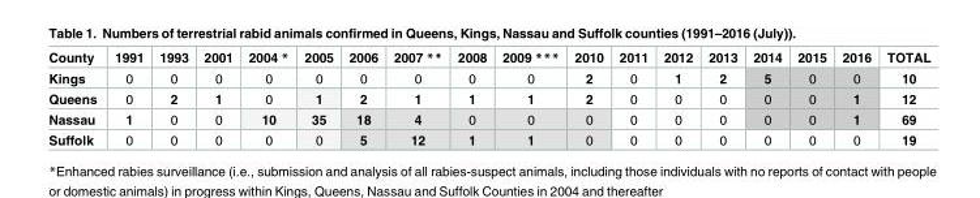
<table><thead><tr><td>County</td><td>1991</td><td>1993</td><td>2001</td><td>2004 *</td><td>2005</td><td>2006</td><td>2007 **</td><td>2008</td><td>2009 ***</td><td>2010</td><td>2011</td><td>2012</td><td>2013</td><td>2014</td><td>2015</td><td>2016</td><td>TOTAL</td></tr></thead><tbody><tr><td>Kings</td><td>0</td><td>0</td><td>0</td><td>0</td><td>0</td><td>0</td><td>0</td><td>0</td><td>0</td><td>2</td><td>0</td><td>1</td><td>2</td><td>5</td><td>0</td><td>0</td><td>10</td></tr><tr><td>Queens</td><td>0</td><td>2</td><td>1</td><td>0</td><td>1</td><td>2</td><td>1</td><td>1</td><td>1</td><td>2</td><td>0</td><td>0</td><td>0</td><td>0</td><td>0</td><td>1</td><td>12</td></tr><tr><td>Nassau</td><td>1</td><td>0</td><td>0</td><td>10</td><td>35</td><td>18</td><td>4</td><td>0</td><td>0</td><td>0</td><td>0</td><td>0</td><td>0</td><td>0</td><td>0</td><td>1</td><td>69</td></tr><tr><td>Suffolk</td><td>0</td><td>0</td><td>0</td><td>0</td><td>0</td><td>5</td><td>12</td><td>1</td><td>1</td><td>0</td><td>0</td><td>0</td><td>0</td><td>0</td><td>0</td><td>0</td><td>19</td></tr></tbody></table>